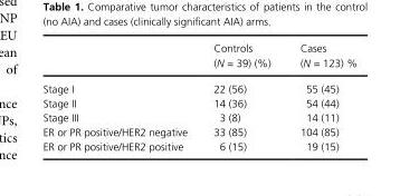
<table><thead><tr><td></td><td>Controls (N = 39) (%)</td><td>Cases (N = 123) %</td></tr></thead><tbody><tr><td>Stage I</td><td>22 (56)</td><td>55 (45)</td></tr><tr><td>Stage II</td><td>14 (36)</td><td>54 (44)</td></tr><tr><td>Stage III</td><td>3 (8)</td><td>14 (11)</td></tr><tr><td>ER or PR positive/HER2 negative</td><td>33 (85)</td><td>104 (85)</td></tr><tr><td>ER or PR positive/HER2 positive</td><td>6 (15)</td><td>19 (15)</td></tr></tbody></table>